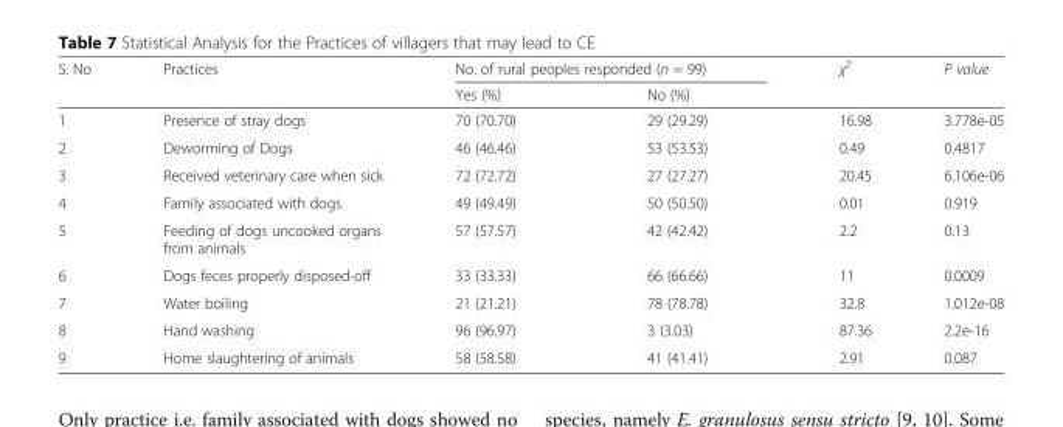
<table><thead><tr><td rowspan="2">S. No</td><td rowspan="2">Practices</td><td colspan="2">No. of rural peoples responded (n = 99)</td><td rowspan="2">χ<sup>2</sup></td><td rowspan="2">P value</td></tr><tr><td>Yes (%)</td><td>No (%)</td></tr></thead><tbody><tr><td>1</td><td>Presence of stray dogs</td><td>70 (70.70)</td><td>29 (29.29)</td><td>16.98</td><td>3.778e-05</td></tr><tr><td>2</td><td>Deworming of Dogs</td><td>46 (46.46)</td><td>53 (53.53)</td><td>0.49</td><td>0.4817</td></tr><tr><td>3</td><td>Received veterinary care when sick</td><td>72 (72.72)</td><td>27 (27.27)</td><td>20.45</td><td>6.106e-06</td></tr><tr><td>4</td><td>Family associated with dogs</td><td>49 (49.49)</td><td>50 (50.50)</td><td>0.01</td><td>0.919</td></tr><tr><td>5</td><td>Feeding of dogs uncooked organs from animals</td><td>57 (57.57)</td><td>42 (42.42)</td><td>2.2</td><td>0.13</td></tr><tr><td>6</td><td>Dogs feces properly disposed-off</td><td>33 (33.33)</td><td>66 (66.66)</td><td>11</td><td>0.0009</td></tr><tr><td>7</td><td>Water boiling</td><td>21 (21.21)</td><td>78 (78.78)</td><td>32.8</td><td>1.012e-08</td></tr><tr><td>8</td><td>Hand washing</td><td>96 (96.97)</td><td>3 (3.03)</td><td>87.36</td><td>2.2e-16</td></tr><tr><td>9</td><td>Home slaughtering of animals</td><td>58 (58.58)</td><td>41 (41.41)</td><td>2.91</td><td>0.087</td></tr></tbody></table>